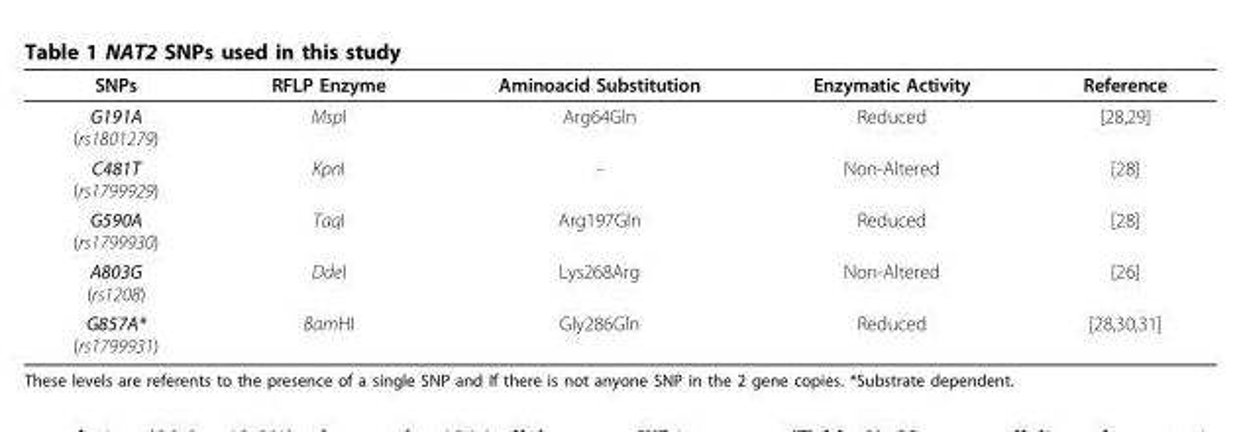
<table><thead><tr><td>SNPs</td><td>RFLP Enzyme</td><td>Aminoacid Substitution</td><td>Enzymatic Activity</td><td>Reference</td></tr></thead><tbody><tr><td>G191A (rs1801279)</td><td>MspI</td><td>Arg64Gln</td><td>Reduced</td><td>[28,29]</td></tr><tr><td>C481T (rs1799929)</td><td>KpnI</td><td>-</td><td>Non-Altered</td><td>[28]</td></tr><tr><td>G590A (rs1799930)</td><td>TaqI</td><td>Arg197Gln</td><td>Reduced</td><td>[28]</td></tr><tr><td>A803G (rs1208)</td><td>DdeI</td><td>Lys268Arg</td><td>Non-Altered</td><td>[26]</td></tr><tr><td>G857A* (rs1799931)</td><td>BamHI</td><td>Gly286Gln</td><td>Reduced</td><td>[28,30,31]</td></tr></tbody></table>